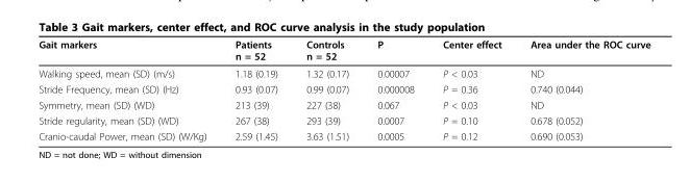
<table><thead><tr><td>Gait markers</td><td>Patients n = 52</td><td>Controls n = 52</td><td>P</td><td>Center effect</td><td>Area under the ROC curve</td></tr></thead><tbody><tr><td>Walking speed, mean (SD) (m/s)</td><td>1.18 (0.19)</td><td>1.32 (0.17)</td><td>0.00007</td><td>P &lt; 0.03</td><td>ND</td></tr><tr><td>Stride Frequency, mean (SD) (Hz)</td><td>0.93 (0.07)</td><td>0.99 (0.07)</td><td>0.000008</td><td>P = 0.36</td><td>0.740 (0.044)</td></tr><tr><td>Symmetry, mean (SD) (WD)</td><td>213 (39)</td><td>227 (38)</td><td>0.067</td><td>P &lt; 0.03</td><td>ND</td></tr><tr><td>Stride regularity, mean (SD) (WD)</td><td>267 (38)</td><td>293 (39)</td><td>0.0007</td><td>P = 0.10</td><td>0.678 (0.052)</td></tr><tr><td>Cranio-caudal Power, mean (SD) (W/Kg)</td><td>2.59 (1.45)</td><td>3.63 (1.51)</td><td>0.0005</td><td>P = 0.12</td><td>0.690 (0.053)</td></tr></tbody></table>